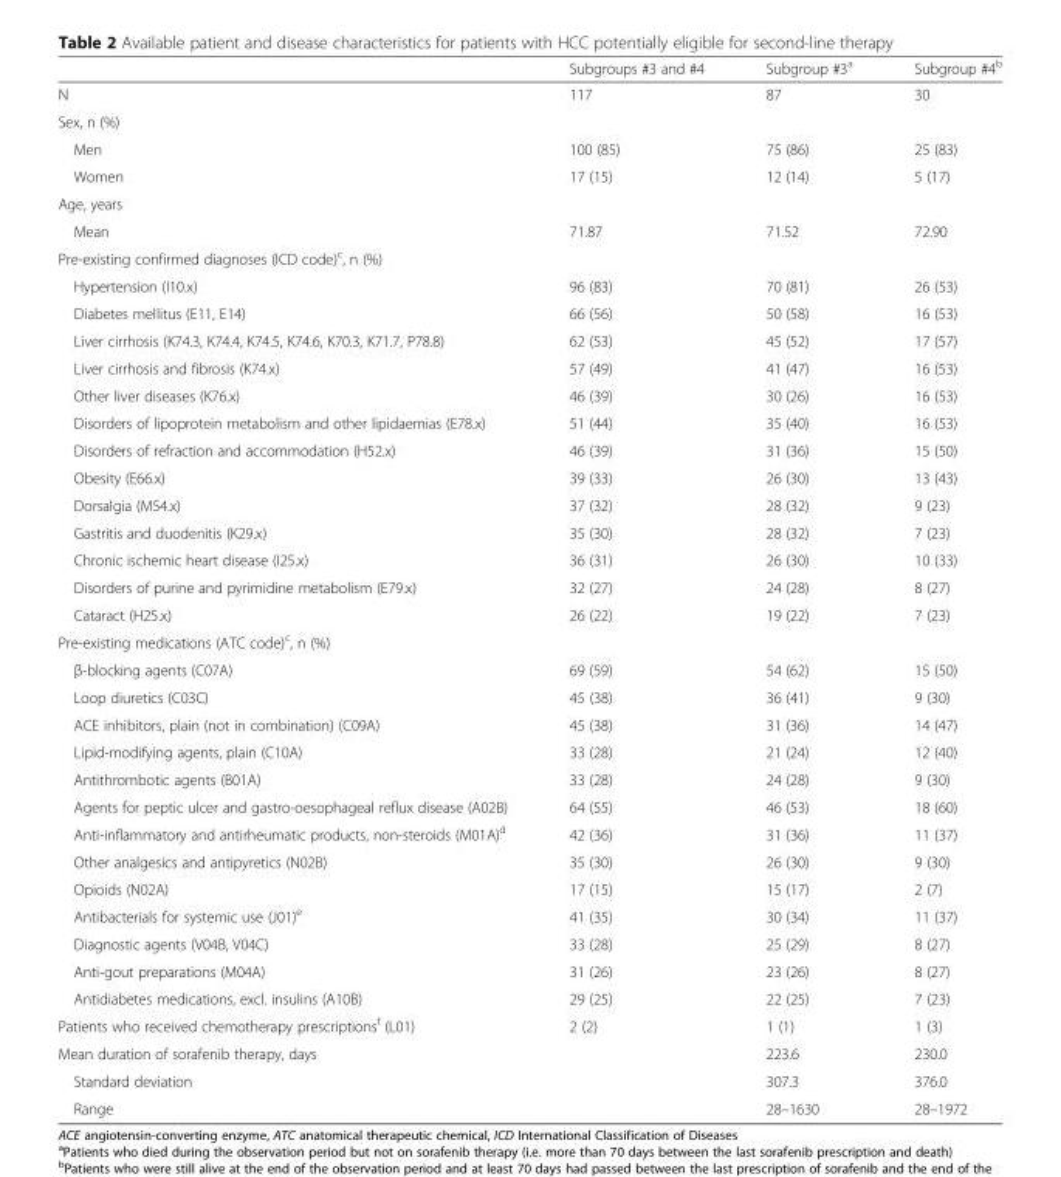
<table><thead><tr><td></td><td>Subgroups #3 and #4</td><td>Subgroup #3<sup>a</sup></td><td>Subgroup #4<sup>b</sup></td></tr></thead><tbody><tr><td>N</td><td>117</td><td>87</td><td>30</td></tr><tr><td colspan="4">Sex, n (%)</td></tr><tr><td>Men</td><td>100 (85)</td><td>75 (86)</td><td>25 (83)</td></tr><tr><td>Women</td><td>17 (15)</td><td>12 (14)</td><td>5 (17)</td></tr><tr><td colspan="4">Age, years</td></tr><tr><td>Mean</td><td>71.87</td><td>71.52</td><td>72.90</td></tr><tr><td colspan="4">Pre-existing confirmed diagnoses (ICD code)<sup>c</sup>, n (%)</td></tr><tr><td>Hypertension (I10.x)</td><td>96 (83)</td><td>70 (81)</td><td>26 (53)</td></tr><tr><td>Diabetes mellitus (E11, E14)</td><td>66 (56)</td><td>50 (58)</td><td>16 (53)</td></tr><tr><td>Liver cirrhosis (K74.3, K74.4, K74.5, K74.6, K70.3, K71.7, P78.8)</td><td>62 (53)</td><td>45 (52)</td><td>17 (57)</td></tr><tr><td>Liver cirrhosis and fibrosis (K74.x)</td><td>57 (49)</td><td>41 (47)</td><td>16 (53)</td></tr><tr><td>Other liver diseases (K76.x)</td><td>46 (39)</td><td>30 (26)</td><td>16 (53)</td></tr><tr><td>Disorders of lipoprotein metabolism and other lipidaemias (E78.x)</td><td>51 (44)</td><td>35 (40)</td><td>16 (53)</td></tr><tr><td>Disorders of refraction and accommodation (H52.x)</td><td>46 (39)</td><td>31 (36)</td><td>15 (50)</td></tr><tr><td>Obesity (E66.x)</td><td>39 (33)</td><td>26 (30)</td><td>13 (43)</td></tr><tr><td>Dorsalgia (M54.x)</td><td>37 (32)</td><td>28 (32)</td><td>9 (23)</td></tr><tr><td>Gastritis and duodenitis (K29.x)</td><td>35 (30)</td><td>28 (32)</td><td>7 (23)</td></tr><tr><td>Chronic ischemic heart disease (I25.x)</td><td>36 (31)</td><td>26 (30)</td><td>10 (33)</td></tr><tr><td>Disorders of purine and pyrimidine metabolism (E79.x)</td><td>32 (27)</td><td>24 (28)</td><td>8 (27)</td></tr><tr><td>Cataract (H25.x)</td><td>26 (22)</td><td>19 (22)</td><td>7 (23)</td></tr><tr><td colspan="4">Pre-existing medications (ATC code)<sup>c</sup>, n (%)</td></tr><tr><td>β-blocking agents (C07A)</td><td>69 (59)</td><td>54 (62)</td><td>15 (50)</td></tr><tr><td>Loop diuretics (C03C)</td><td>45 (38)</td><td>36 (41)</td><td>9 (30)</td></tr><tr><td>ACE inhibitors, plain (not in combination) (C09A)</td><td>45 (38)</td><td>31 (36)</td><td>14 (47)</td></tr><tr><td>Lipid-modifying agents, plain (C10A)</td><td>33 (28)</td><td>21 (24)</td><td>12 (40)</td></tr><tr><td>Antithrombotic agents (B01A)</td><td>33 (28)</td><td>24 (28)</td><td>9 (30)</td></tr><tr><td>Agents for peptic ulcer and gastro-oesophageal reflux disease (A02B)</td><td>64 (55)</td><td>46 (53)</td><td>18 (60)</td></tr><tr><td>Anti-inflammatory and antirheumatic products, non-steroids (M01A)<sup>d</sup></td><td>42 (36)</td><td>31 (36)</td><td>11 (37)</td></tr><tr><td>Other analgesics and antipyretics (N02B)</td><td>35 (30)</td><td>26 (30)</td><td>9 (30)</td></tr><tr><td>Opioids (N02A)</td><td>17 (15)</td><td>15 (17)</td><td>2 (7)</td></tr><tr><td>Antibacterials for systemic use (J01)<sup>e</sup></td><td>41 (35)</td><td>30 (34)</td><td>11 (37)</td></tr><tr><td>Diagnostic agents (V04B, V04C)</td><td>33 (28)</td><td>25 (29)</td><td>8 (27)</td></tr><tr><td>Anti-gout preparations (M04A)</td><td>31 (26)</td><td>23 (26)</td><td>8 (27)</td></tr><tr><td>Antidiabetes medications, excl. insulins (A10B)</td><td>29 (25)</td><td>22 (25)</td><td>7 (23)</td></tr><tr><td>Patients who received chemotherapy prescriptions<sup>f</sup> (L01)</td><td>2 (2)</td><td>1 (1)</td><td>1 (3)</td></tr><tr><td>Mean duration of sorafenib therapy, days</td><td></td><td>223.6</td><td>230.0</td></tr><tr><td>Standard deviation</td><td></td><td>307.3</td><td>376.0</td></tr><tr><td>Range</td><td></td><td>28–1630</td><td>28–1972</td></tr></tbody></table>